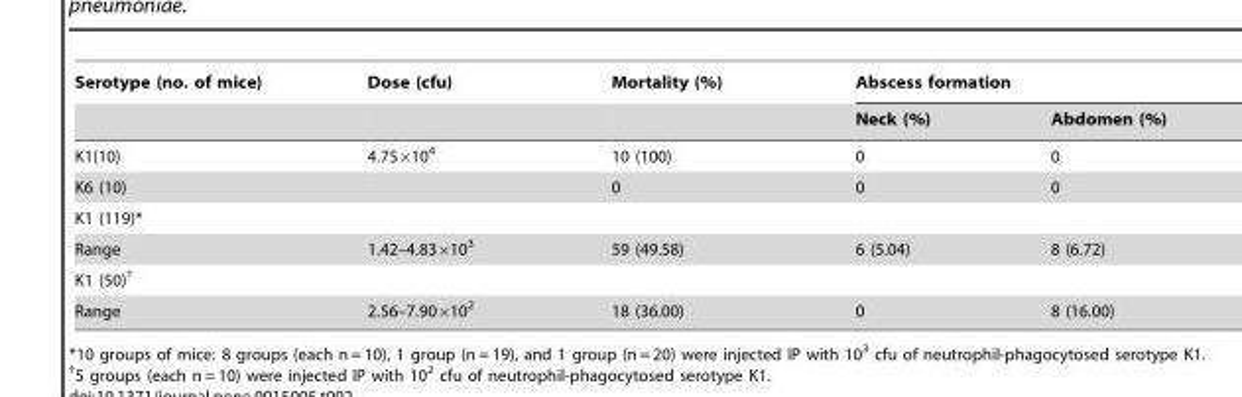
<table><thead><tr><td rowspan="2">Serotype (no. of mice)</td><td rowspan="2">Dose (cfu)</td><td rowspan="2">Mortality (%)</td><td colspan="2">Abscess formation</td></tr><tr><td>Neck (%)</td><td>Abdomen (%)</td></tr></thead><tbody><tr><td>K1(10)</td><td>4.75×10<sup>4</sup></td><td>10 (100)</td><td>0</td><td>0</td></tr><tr><td>K6 (10)</td><td></td><td>0</td><td>0</td><td>0</td></tr><tr><td colspan="5">K1 (119)*</td></tr><tr><td>Range</td><td>1.42–4.83×10<sup>3</sup></td><td>59 (49.58)</td><td>6 (5.04)</td><td>8 (6.72)</td></tr><tr><td colspan="5">K1 (50)†</td></tr><tr><td>Range</td><td>2.56–7.90×10<sup>2</sup></td><td>18 (36.00)</td><td>0</td><td>8 (16.00)</td></tr></tbody></table>